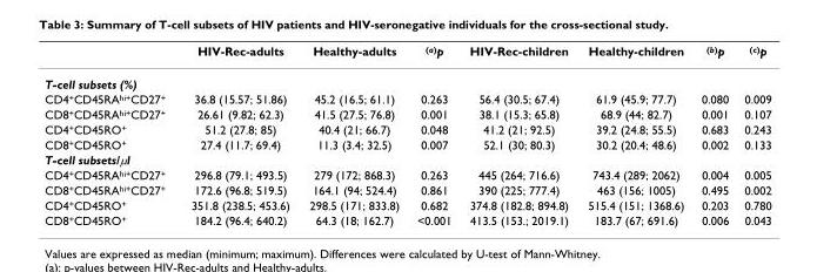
<table><thead><tr><td></td><td>HIV-Rec-adults</td><td>Healthy-adults</td><td><sup>(a)</sup>p</td><td>HIV-Rec-children</td><td>Healthy-children</td><td><sup>(b)</sup>p</td><td><sup>(c)</sup>p</td></tr></thead><tbody><tr><td colspan="8">T-cell subsets (%)</td></tr><tr><td>CD4<sup>+</sup>CD45RA<sup>hi+</sup>CD27<sup>+</sup></td><td>36.8 (15.57; 51.86)</td><td>45.2 (16.5; 61.1)</td><td>0.263</td><td>56.4 (30.5; 67.4)</td><td>61.9 (45.9; 77.7)</td><td>0.080</td><td>0.009</td></tr><tr><td>CD8<sup>+</sup>CD45RA<sup>hi+</sup>CD27<sup>+</sup></td><td>26.61 (9.82; 62.3)</td><td>41.5 (27.5; 76.8)</td><td>0.001</td><td>38.1 (15.3; 65.8)</td><td>68.9 (44; 82.7)</td><td>0.001</td><td>0.107</td></tr><tr><td>CD4<sup>+</sup>CD45RO<sup>+</sup></td><td>51.2 (27.8; 85)</td><td>40.4 (21; 66.7)</td><td>0.048</td><td>41.2 (21; 92.5)</td><td>39.2 (24.8; 55.5)</td><td>0.683</td><td>0.243</td></tr><tr><td>CD8<sup>+</sup>CD45RO<sup>+</sup></td><td>27.4 (11.7; 69.4)</td><td>11.3 (3.4; 32.5)</td><td>0.007</td><td>52.1 (30; 80.3)</td><td>30.2 (20.4; 48.6)</td><td>0.002</td><td>0.133</td></tr><tr><td colspan="8">T-cell subsets/µl</td></tr><tr><td>CD4<sup>+</sup>CD45RA<sup>hi+</sup>CD27<sup>+</sup></td><td>296.8 (79.1; 493.5)</td><td>279 (172; 868.3)</td><td>0.263</td><td>445 (264; 716.6)</td><td>743.4 (289; 2062)</td><td>0.004</td><td>0.005</td></tr><tr><td>CD8<sup>+</sup>CD45RA<sup>hi+</sup>CD27<sup>+</sup></td><td>172.6 (96.8; 519.5)</td><td>164.1 (94; 524.4)</td><td>0.861</td><td>390 (225; 777.4)</td><td>463 (156; 1005)</td><td>0.495</td><td>0.002</td></tr><tr><td>CD4<sup>+</sup>CD45RO<sup>+</sup></td><td>351.8 (238.5; 453.6)</td><td>298.5 (171; 833.8)</td><td>0.682</td><td>374.8 (182.8; 894.8)</td><td>515.4 (151; 1368.6)</td><td>0.203</td><td>0.780</td></tr><tr><td>CD8<sup>+</sup>CD45RO<sup>+</sup></td><td>184.2 (96.4; 640.2)</td><td>64.3 (18; 162.7)</td><td>&lt;0.001</td><td>413.5 (153.; 2019.1)</td><td>183.7 (67; 691.6)</td><td>0.006</td><td>0.043</td></tr></tbody></table>